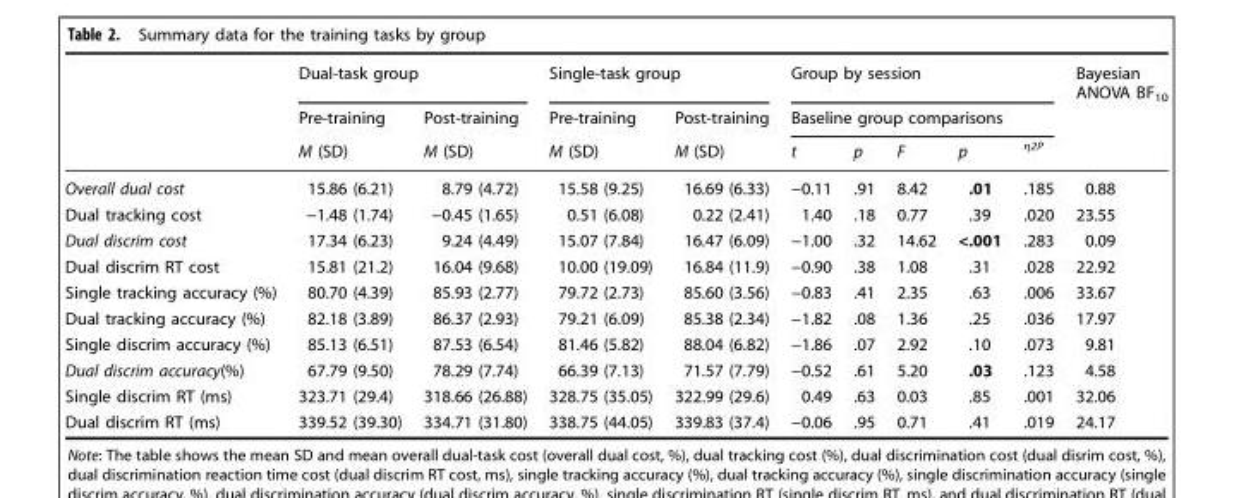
<table><thead><tr><td rowspan="3"></td><td colspan="2">Dual-task group</td><td colspan="2">Single-task group</td><td rowspan="2" colspan="5">Group by session Baseline group comparisons</td><td rowspan="3">Bayesian ANOVA BF<sub>10</sub></td></tr><tr><td rowspan="2">Pre-training M (SD)</td><td rowspan="2">Post-training M (SD)</td><td rowspan="2">Pre-training M (SD)</td><td rowspan="2">Post-training M (SD)</td></tr><tr><td>t</td><td>p</td><td>F</td><td>p</td><td><sup>η2P</sup></td></tr></thead><tbody><tr><td>Overall dual cost</td><td>15.86 (6.21)</td><td>8.79 (4.72)</td><td>15.58 (9.25)</td><td>16.69 (6.33)</td><td>−0.11</td><td>.91</td><td>8.42</td><td>.01</td><td>.185</td><td>0.88</td></tr><tr><td>Dual tracking cost</td><td>−1.48 (1.74)</td><td>−0.45 (1.65)</td><td>0.51 (6.08)</td><td>0.22 (2.41)</td><td>1.40</td><td>.18</td><td>0.77</td><td>.39</td><td>.020</td><td>23.55</td></tr><tr><td>Dual discrim cost</td><td>17.34 (6.23)</td><td>9.24 (4.49)</td><td>15.07 (7.84)</td><td>16.47 (6.09)</td><td>−1.00</td><td>.32</td><td>14.62</td><td>&lt;.001</td><td>.283</td><td>0.09</td></tr><tr><td>Dual discrim RT cost</td><td>15.81 (21.2)</td><td>16.04 (9.68)</td><td>10.00 (19.09)</td><td>16.84 (11.9)</td><td>−0.90</td><td>.38</td><td>1.08</td><td>.31</td><td>.028</td><td>22.92</td></tr><tr><td>Single tracking accuracy (%)</td><td>80.70 (4.39)</td><td>85.93 (2.77)</td><td>79.72 (2.73)</td><td>85.60 (3.56)</td><td>−0.83</td><td>.41</td><td>2.35</td><td>.63</td><td>.006</td><td>33.67</td></tr><tr><td>Dual tracking accuracy (%)</td><td>82.18 (3.89)</td><td>86.37 (2.93)</td><td>79.21 (6.09)</td><td>85.38 (2.34)</td><td>−1.82</td><td>.08</td><td>1.36</td><td>.25</td><td>.036</td><td>17.97</td></tr><tr><td>Single discrim accuracy (%)</td><td>85.13 (6.51)</td><td>87.53 (6.54)</td><td>81.46 (5.82)</td><td>88.04 (6.82)</td><td>−1.86</td><td>.07</td><td>2.92</td><td>.10</td><td>.073</td><td>9.81</td></tr><tr><td>Dual discrim accuracy(%)</td><td>67.79 (9.50)</td><td>78.29 (7.74)</td><td>66.39 (7.13)</td><td>71.57 (7.79)</td><td>−0.52</td><td>.61</td><td>5.20</td><td>.03</td><td>.123</td><td>4.58</td></tr><tr><td>Single discrim RT (ms)</td><td>323.71 (29.4)</td><td>318.66 (26.88)</td><td>328.75 (35.05)</td><td>322.99 (29.6)</td><td>0.49</td><td>.63</td><td>0.03</td><td>.85</td><td>.001</td><td>32.06</td></tr><tr><td>Dual discrim RT (ms)</td><td>339.52 (39.30)</td><td>334.71 (31.80)</td><td>338.75 (44.05)</td><td>339.83 (37.4)</td><td>−0.06</td><td>.95</td><td>0.71</td><td>.41</td><td>.019</td><td>24.17</td></tr></tbody></table>